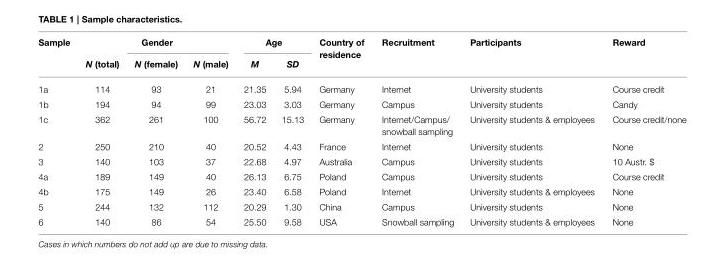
<table><thead><tr><td rowspan="2">Sample</td><td colspan="3">Gender</td><td colspan="2">Age</td><td rowspan="2">Country of residence</td><td rowspan="2">Recruitment</td><td rowspan="2">Participants</td><td rowspan="2">Reward</td></tr><tr><td>N (total)</td><td>N (female)</td><td>N (male)</td><td>M</td><td>SD</td></tr></thead><tbody><tr><td>1a</td><td>114</td><td>93</td><td>21</td><td>21.35</td><td>5.94</td><td>Germany</td><td>Internet</td><td>University students</td><td>Course credit</td></tr><tr><td>1b</td><td>194</td><td>94</td><td>99</td><td>23.03</td><td>3.03</td><td>Germany</td><td>Campus</td><td>University students</td><td>Candy</td></tr><tr><td>1c</td><td>362</td><td>261</td><td>100</td><td>56.72</td><td>15.13</td><td>Germany</td><td>Internet/Campus/ snowball sampling</td><td>University students &amp; employees</td><td>Course credit/none</td></tr><tr><td>2</td><td>250</td><td>210</td><td>40</td><td>20.52</td><td>4.43</td><td>France</td><td>Internet</td><td>University students</td><td>None</td></tr><tr><td>3</td><td>140</td><td>103</td><td>37</td><td>22.68</td><td>4.97</td><td>Australia</td><td>Campus</td><td>University students</td><td>10 Austr. $</td></tr><tr><td>4a</td><td>189</td><td>149</td><td>40</td><td>26.13</td><td>6.75</td><td>Poland</td><td>Campus</td><td>University students</td><td>Course credit</td></tr><tr><td>4b</td><td>175</td><td>149</td><td>26</td><td>23.40</td><td>6.58</td><td>Poland</td><td>Internet</td><td>University students &amp; employees</td><td>None</td></tr><tr><td>5</td><td>244</td><td>132</td><td>112</td><td>20.29</td><td>1.30</td><td>China</td><td>Campus</td><td>University students</td><td>None</td></tr><tr><td>6</td><td>140</td><td>86</td><td>54</td><td>25.50</td><td>9.58</td><td>USA</td><td>Snowball sampling</td><td>University students &amp; employees</td><td>None</td></tr></tbody></table>